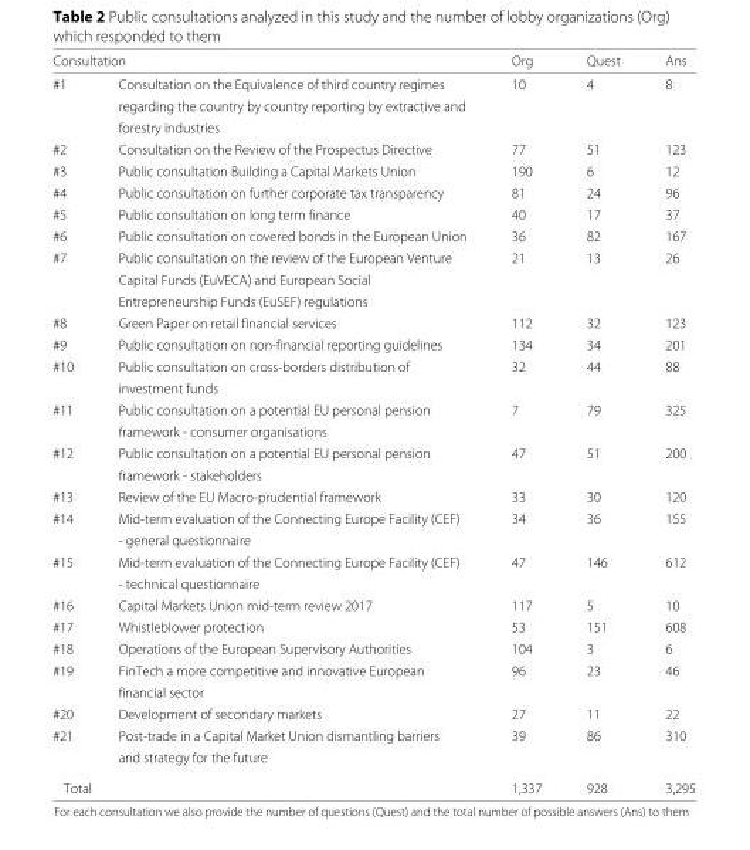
<table><thead><tr><td colspan="2">Consultation</td><td rowspan="2">Org 10</td><td rowspan="2">Quest 4</td><td rowspan="2">Ans 8</td></tr><tr><td>#1</td><td>Consultation on the Equivalence of third country regimes</td></tr></thead><tbody><tr><td></td><td>regarding the country by country reporting by extractive and</td><td></td><td></td><td></td></tr><tr><td></td><td>forestry industries</td><td></td><td></td><td></td></tr><tr><td>#2</td><td>Consultation on the Review of the Prospectus Directive</td><td>77</td><td>51</td><td>123</td></tr><tr><td>#3</td><td>Public consultation Building a Capital Markets Union</td><td>190</td><td>6</td><td>12</td></tr><tr><td>#4</td><td>Public consultation on further corporate tax transparency</td><td>81</td><td>24</td><td>96</td></tr><tr><td>#5</td><td>Public consultation on long term finance</td><td>40</td><td>17</td><td>37</td></tr><tr><td>#6</td><td>Public consultation on covered bonds in the European Union</td><td>36</td><td>82</td><td>167</td></tr><tr><td rowspan="3">#7</td><td>Public consultation on the review of the European Venture</td><td>21</td><td>13</td><td>26</td></tr><tr><td>Capital Funds (EuVECA) and European Social</td><td></td><td></td><td></td></tr><tr><td>Entrepreneurship Funds (EuSEF) regulations</td><td></td><td></td><td></td></tr><tr><td>#8</td><td>Green Paper on retail financial services</td><td>112</td><td>32</td><td>123</td></tr><tr><td>#9</td><td>Public consultation on non-financial reporting guidelines</td><td>134</td><td>34</td><td>201</td></tr><tr><td rowspan="2">#10</td><td>Public consultation on cross-borders distribution of</td><td>32</td><td>44</td><td>88</td></tr><tr><td>investment funds</td><td></td><td></td><td></td></tr><tr><td rowspan="2">#11</td><td>Public consultation on a potential EU personal pension</td><td>7</td><td>79</td><td>325</td></tr><tr><td>framework - consumer organisations</td><td></td><td></td><td></td></tr><tr><td rowspan="2">#12</td><td>Public consultation on a potential EU personal pension</td><td>47</td><td>51</td><td>200</td></tr><tr><td>framework - stakeholders</td><td></td><td></td><td></td></tr><tr><td>#13</td><td>Review of the EU Macro-prudential framework</td><td>33</td><td>30</td><td>120</td></tr><tr><td rowspan="2">#14</td><td>Mid-term evaluation of the Connecting Europe Facility (CEF)</td><td>34</td><td>36</td><td>155</td></tr><tr><td>- general questionnaire</td><td></td><td></td><td></td></tr><tr><td rowspan="2">#15</td><td>Mid-term evaluation of the Connecting Europe Facility (CEF)</td><td>47</td><td>146</td><td>612</td></tr><tr><td>- technical questionnaire</td><td></td><td></td><td></td></tr><tr><td>#16</td><td>Capital Markets Union mid-term review 2017</td><td>117</td><td>5</td><td>10</td></tr><tr><td>#17</td><td>Whistleblower protection</td><td>53</td><td>151</td><td>608</td></tr><tr><td>#18</td><td>Operations of the European Supervisory Authorities</td><td>104</td><td>3</td><td>6</td></tr><tr><td rowspan="2">#19</td><td>FinTech a more competitive and innovative European</td><td>96</td><td>23</td><td>46</td></tr><tr><td>financial sector</td><td></td><td></td><td></td></tr><tr><td>#20</td><td>Development of secondary markets</td><td>27</td><td>11</td><td>22</td></tr><tr><td rowspan="2">#21</td><td>Post-trade in a Capital Market Union dismantling barriers</td><td>39</td><td>86</td><td>310</td></tr><tr><td>and strategy for the future</td><td></td><td></td><td></td></tr><tr><td colspan="2">Total</td><td>1,337</td><td>928</td><td>3,295</td></tr></tbody></table>